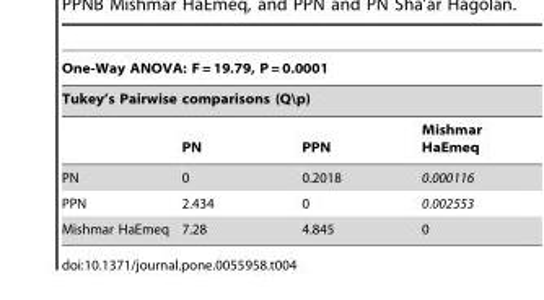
<table><thead><tr><td rowspan="2" colspan="4">One-Way ANOVA: F = 19.79, P = 0.0001 Tukey’s Pairwise comparisons (Q\p)</td></tr><tr></tr><tr><td></td><td>PN</td><td>PPN</td><td>Mishmar HaEmeq</td></tr></thead><tbody><tr><td>PN</td><td>0</td><td>0.2018</td><td>0.000116</td></tr><tr><td>PPN</td><td>2.434</td><td>0</td><td>0.002553</td></tr><tr><td>Mishmar HaEmeq</td><td>7.28</td><td>4.845</td><td>0</td></tr></tbody></table>